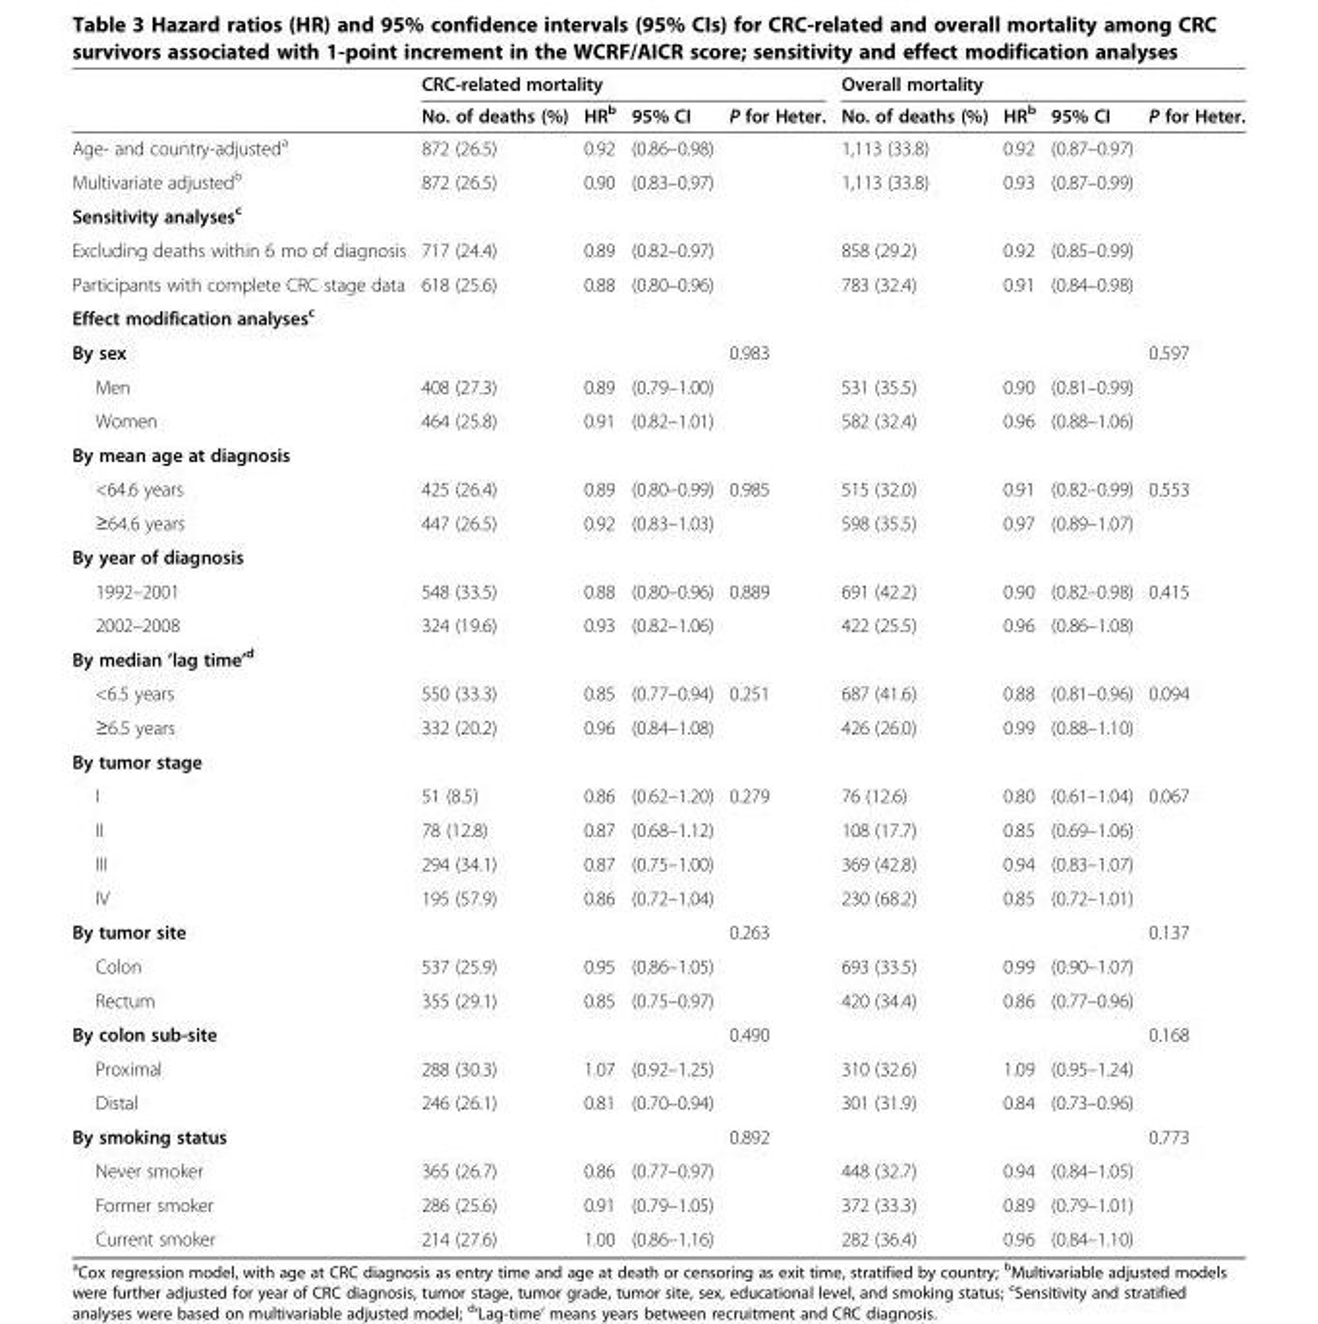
<table><thead><tr><td rowspan="2"></td><td colspan="4">CRC-related mortality</td><td colspan="4">Overall mortality</td></tr><tr><td>No. of deaths (%)</td><td>HR<sup>b</sup></td><td>95% CI</td><td>P for Heter.</td><td>No. of deaths (%)</td><td>HR<sup>b</sup></td><td>95% CI</td><td>P for Heter.</td></tr></thead><tbody><tr><td>Age- and country-adjusted<sup>a</sup></td><td>872 (26.5)</td><td>0.92</td><td>(0.86–0.98)</td><td></td><td>1,113 (33.8)</td><td>0.92</td><td>(0.87–0.97)</td><td></td></tr><tr><td>Multivariate adjusted<sup>b</sup></td><td>872 (26.5)</td><td>0.90</td><td>(0.83–0.97)</td><td></td><td>1,113 (33.8)</td><td>0.93</td><td>(0.87–0.99)</td><td></td></tr><tr><td colspan="9">Sensitivity analyses<sup>c</sup></td></tr><tr><td>Excluding deaths within 6 mo of diagnosis</td><td>717 (24.4)</td><td>0.89</td><td>(0.82–0.97)</td><td></td><td>858 (29.2)</td><td>0.92</td><td>(0.85–0.99)</td><td></td></tr><tr><td>Participants with complete CRC stage data</td><td>618 (25.6)</td><td>0.88</td><td>(0.80–0.96)</td><td></td><td>783 (32.4)</td><td>0.91</td><td>(0.84–0.98)</td><td></td></tr><tr><td colspan="9">Effect modification analyses<sup>c</sup></td></tr><tr><td>By sex</td><td></td><td></td><td></td><td>0.983</td><td></td><td></td><td></td><td>0.597</td></tr><tr><td>Men</td><td>408 (27.3)</td><td>0.89</td><td>(0.79–1.00)</td><td></td><td>531 (35.5)</td><td>0.90</td><td>(0.81–0.99)</td><td></td></tr><tr><td>Women</td><td>464 (25.8)</td><td>0.91</td><td>(0.82–1.01)</td><td></td><td>582 (32.4)</td><td>0.96</td><td>(0.88–1.06)</td><td></td></tr><tr><td colspan="9">By mean age at diagnosis</td></tr><tr><td>&lt;64.6 years</td><td>425 (26.4)</td><td>0.89</td><td>(0.80–0.99)</td><td>0.985</td><td>515 (32.0)</td><td>0.91</td><td>(0.82–0.99)</td><td>0.553</td></tr><tr><td>≥64.6 years</td><td>447 (26.5)</td><td>0.92</td><td>(0.83–1.03)</td><td></td><td>598 (35.5)</td><td>0.97</td><td>(0.89–1.07)</td><td></td></tr><tr><td colspan="9">By year of diagnosis</td></tr><tr><td>1992–2001</td><td>548 (33.5)</td><td>0.88</td><td>(0.80–0.96)</td><td>0.889</td><td>691 (42.2)</td><td>0.90</td><td>(0.82–0.98)</td><td>0.415</td></tr><tr><td>2002–2008</td><td>324 (19.6)</td><td>0.93</td><td>(0.82–1.06)</td><td></td><td>422 (25.5)</td><td>0.96</td><td>(0.86–1.08)</td><td></td></tr><tr><td colspan="9">By median ‘lag time’<sup>d</sup></td></tr><tr><td>&lt;6.5 years</td><td>550 (33.3)</td><td>0.85</td><td>(0.77–0.94)</td><td>0.251</td><td>687 (41.6)</td><td>0.88</td><td>(0.81–0.96)</td><td>0.094</td></tr><tr><td>≥6.5 years</td><td>332 (20.2)</td><td>0.96</td><td>(0.84–1.08)</td><td></td><td>426 (26.0)</td><td>0.99</td><td>(0.88–1.10)</td><td></td></tr><tr><td colspan="9">By tumor stage</td></tr><tr><td>I</td><td>51 (8.5)</td><td>0.86</td><td>(0.62–1.20)</td><td>0.279</td><td>76 (12.6)</td><td>0.80</td><td>(0.61–1.04)</td><td>0.067</td></tr><tr><td>II</td><td>78 (12.8)</td><td>0.87</td><td>(0.68–1.12)</td><td></td><td>108 (17.7)</td><td>0.85</td><td>(0.69–1.06)</td><td></td></tr><tr><td>III</td><td>294 (34.1)</td><td>0.87</td><td>(0.75–1.00)</td><td></td><td>369 (42.8)</td><td>0.94</td><td>(0.83–1.07)</td><td></td></tr><tr><td>IV</td><td>195 (57.9)</td><td>0.86</td><td>(0.72–1.04)</td><td></td><td>230 (68.2)</td><td>0.85</td><td>(0.72–1.01)</td><td></td></tr><tr><td>By tumor site</td><td></td><td></td><td></td><td>0.263</td><td></td><td></td><td></td><td>0.137</td></tr><tr><td>Colon</td><td>537 (25.9)</td><td>0.95</td><td>(0.86–1.05)</td><td></td><td>693 (33.5)</td><td>0.99</td><td>(0.90–1.07)</td><td></td></tr><tr><td>Rectum</td><td>355 (29.1)</td><td>0.85</td><td>(0.75–0.97)</td><td></td><td>420 (34.4)</td><td>0.86</td><td>(0.77–0.96)</td><td></td></tr><tr><td>By colon sub-site</td><td></td><td></td><td></td><td>0.490</td><td></td><td></td><td></td><td>0.168</td></tr><tr><td>Proximal</td><td>288 (30.3)</td><td>1.07</td><td>(0.92–1.25)</td><td></td><td>310 (32.6)</td><td>1.09</td><td>(0.95–1.24)</td><td></td></tr><tr><td>Distal</td><td>246 (26.1)</td><td>0.81</td><td>(0.70–0.94)</td><td></td><td>301 (31.9)</td><td>0.84</td><td>(0.73–0.96)</td><td></td></tr><tr><td>By smoking status</td><td></td><td></td><td></td><td>0.892</td><td></td><td></td><td></td><td>0.773</td></tr><tr><td>Never smoker</td><td>365 (26.7)</td><td>0.86</td><td>(0.77–0.97)</td><td></td><td>448 (32.7)</td><td>0.94</td><td>(0.84–1.05)</td><td></td></tr><tr><td>Former smoker</td><td>286 (25.6)</td><td>0.91</td><td>(0.79–1.05)</td><td></td><td>372 (33.3)</td><td>0.89</td><td>(0.79–1.01)</td><td></td></tr><tr><td>Current smoker</td><td>214 (27.6)</td><td>1.00</td><td>(0.86–1.16)</td><td></td><td>282 (36.4)</td><td>0.96</td><td>(0.84–1.10)</td><td></td></tr></tbody></table>